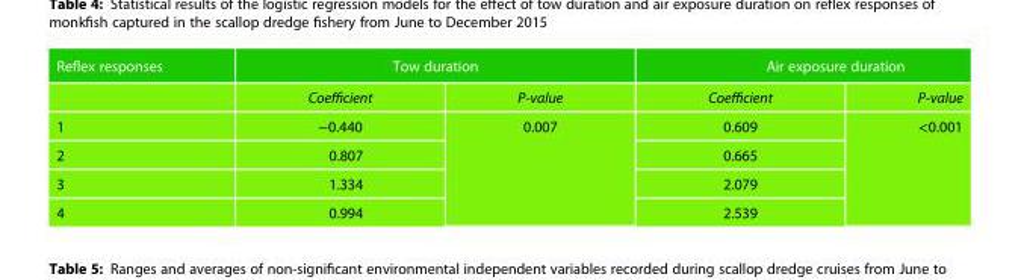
<table><thead><tr><td rowspan="2">Reflex responses</td><td colspan="2">Tow duration</td><td colspan="2">Air exposure duration</td></tr><tr><td>Coefficient</td><td>P-value</td><td>Coefficient</td><td>P-value</td></tr></thead><tbody><tr><td>1</td><td>−0.440</td><td rowspan="4">0.007</td><td>0.609</td><td rowspan="4">&lt;0.001</td></tr><tr><td>2</td><td>0.807</td><td>0.665</td></tr><tr><td>3</td><td>1.334</td><td>2.079</td></tr><tr><td>4</td><td>0.994</td><td>2.539</td></tr></tbody></table>